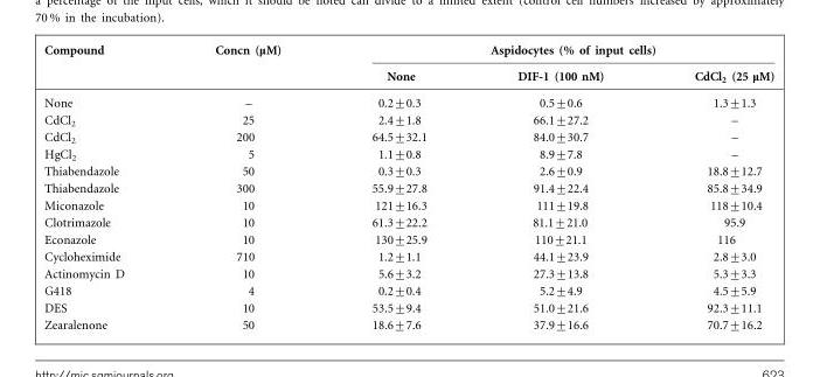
<table><thead><tr><td rowspan="2">Compound</td><td rowspan="2">Concn (μM)</td><td colspan="3">Aspidocytes (% of input cells)</td></tr><tr><td>None</td><td>DIF-1 (100 nM)</td><td>CdCl<sub>2</sub> (25 μM)</td></tr></thead><tbody><tr><td>None</td><td>–</td><td>0.2±0.3</td><td>0.5±0.6</td><td>1.3±1.3</td></tr><tr><td>CdCl<sub>2</sub></td><td>25</td><td>2.4±1.8</td><td>66.1±27.2</td><td>–</td></tr><tr><td>CdCl<sub>2</sub></td><td>200</td><td>64.5±32.1</td><td>84.0±30.7</td><td>–</td></tr><tr><td>HgCl<sub>2</sub></td><td>5</td><td>1.1±0.8</td><td>8.9±7.8</td><td>–</td></tr><tr><td>Thiabendazole</td><td>50</td><td>0.3±0.3</td><td>2.6±0.9</td><td>18.8±12.7</td></tr><tr><td>Thiabendazole</td><td>300</td><td>55.9±27.8</td><td>91.4±22.4</td><td>85.8±34.9</td></tr><tr><td>Miconazole</td><td>10</td><td>121±16.3</td><td>111±19.8</td><td>118±10.4</td></tr><tr><td>Clotrimazole</td><td>10</td><td>61.3±22.2</td><td>81.1±21.0</td><td>95.9</td></tr><tr><td>Econazole</td><td>10</td><td>130±25.9</td><td>110±21.1</td><td>116</td></tr><tr><td>Cycloheximide</td><td>710</td><td>1.2±1.1</td><td>44.1±23.9</td><td>2.8±3.0</td></tr><tr><td>Actinomycin D</td><td>10</td><td>5.6±3.2</td><td>27.3±13.8</td><td>5.3±3.3</td></tr><tr><td>G418</td><td>4</td><td>0.2±0.4</td><td>5.2±4.9</td><td>4.5±5.9</td></tr><tr><td>DES</td><td>10</td><td>53.5±9.4</td><td>51.0±21.6</td><td>92.3±11.1</td></tr><tr><td>Zearalenone</td><td>50</td><td>18.6±7.6</td><td>37.9±16.6</td><td>70.7±16.2</td></tr></tbody></table>